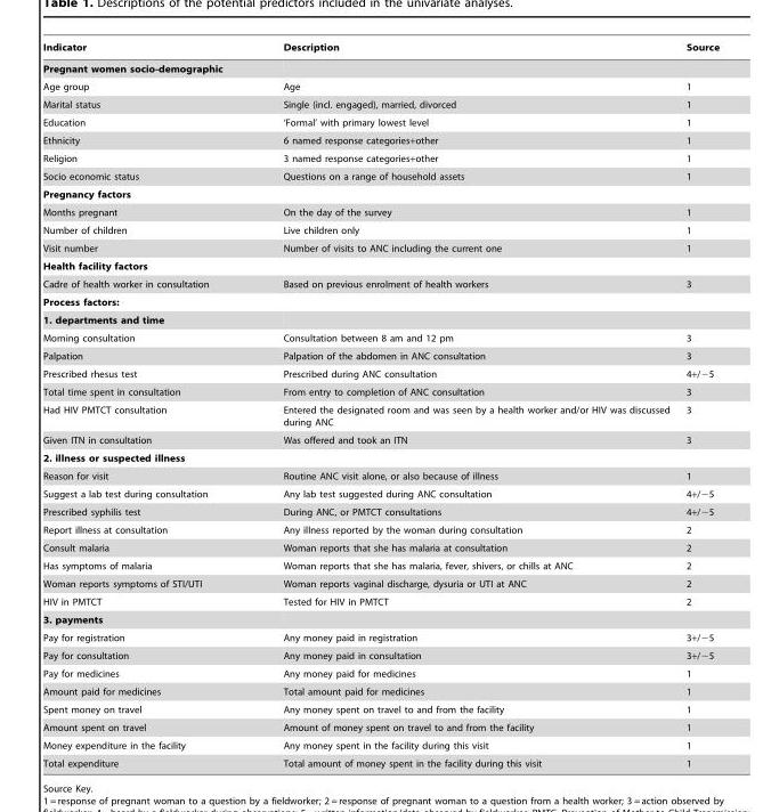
<table><thead><tr><td>Indicator</td><td>Description</td><td>Source</td></tr></thead><tbody><tr><td colspan="3">Pregnant women socio-demographic</td></tr><tr><td>Age group</td><td>Age</td><td>1</td></tr><tr><td>Marital status</td><td>Single (incl. engaged), married, divorced</td><td>1</td></tr><tr><td>Education</td><td>‘Formal’ with primary lowest level</td><td>1</td></tr><tr><td>Ethnicity</td><td>6 named response categories+other</td><td>1</td></tr><tr><td>Religion</td><td>3 named response categories+other</td><td>1</td></tr><tr><td>Socio economic status</td><td>Questions on a range of household assets</td><td>1</td></tr><tr><td colspan="3">Pregnancy factors</td></tr><tr><td>Months pregnant</td><td>On the day of the survey</td><td>1</td></tr><tr><td>Number of children</td><td>Live children only</td><td>1</td></tr><tr><td>Visit number</td><td>Number of visits to ANC including the current one</td><td>1</td></tr><tr><td colspan="3">Health facility factors</td></tr><tr><td>Cadre of health worker in consultation</td><td>Based on previous enrolment of health workers</td><td>3</td></tr><tr><td colspan="3">Process factors:</td></tr><tr><td colspan="3">1. departments and time</td></tr><tr><td>Morning consultation</td><td>Consultation between 8 am and 12 pm</td><td>3</td></tr><tr><td>Palpation</td><td>Palpation of the abdomen in ANC consultation</td><td>3</td></tr><tr><td>Prescribed rhesus test</td><td>Prescribed during ANC consultation</td><td>4+/−5</td></tr><tr><td>Total time spent in consultation</td><td>From entry to completion of ANC consultation</td><td>3</td></tr><tr><td>Had HIV PMTCT consultation</td><td>Entered the designated room and was seen by a health worker and/or HIV was discussed during ANC</td><td>3</td></tr><tr><td>Given ITN in consultation</td><td>Was offered and took an ITN</td><td>3</td></tr><tr><td colspan="3">2. illness or suspected illness</td></tr><tr><td>Reason for visit</td><td>Routine ANC visit alone, or also because of illness</td><td>1</td></tr><tr><td>Suggest a lab test during consultation</td><td>Any lab test suggested during ANC consultation</td><td>4+/−5</td></tr><tr><td>Prescribed syphilis test</td><td>During ANC, or PMTCT consultations</td><td>4+/−5</td></tr><tr><td>Report illness at consultation</td><td>Any illness reported by the woman during consultation</td><td>2</td></tr><tr><td>Consult malaria</td><td>Woman reports that she has malaria at consultation</td><td>2</td></tr><tr><td>Has symptoms of malaria</td><td>Woman reports that she has malaria, fever, shivers, or chills at ANC</td><td>2</td></tr><tr><td>Woman reports symptoms of STI/UTI</td><td>Woman reports vaginal discharge, dysuria or UTI at ANC</td><td>2</td></tr><tr><td>HIV in PMTCT</td><td>Tested for HIV in PMTCT</td><td>2</td></tr><tr><td colspan="3">3. payments</td></tr><tr><td>Pay for registration</td><td>Any money paid in registration</td><td>3+/−5</td></tr><tr><td>Pay for consultation</td><td>Any money paid in consultation</td><td>3+/−5</td></tr><tr><td>Pay for medicines</td><td>Any money paid for medicines</td><td>1</td></tr><tr><td>Amount paid for medicines</td><td>Total amount paid for medicines</td><td>1</td></tr><tr><td>Spent money on travel</td><td>Any money spent on travel to and from the facility</td><td>1</td></tr><tr><td>Amount spent on travel</td><td>Amount of money spent on travel to and from the facility</td><td>1</td></tr><tr><td>Money expenditure in the facility</td><td>Any money spent in the facility during this visit</td><td>1</td></tr><tr><td>Total expenditure</td><td>Total amount of money spent in the facility during this visit</td><td>1</td></tr></tbody></table>